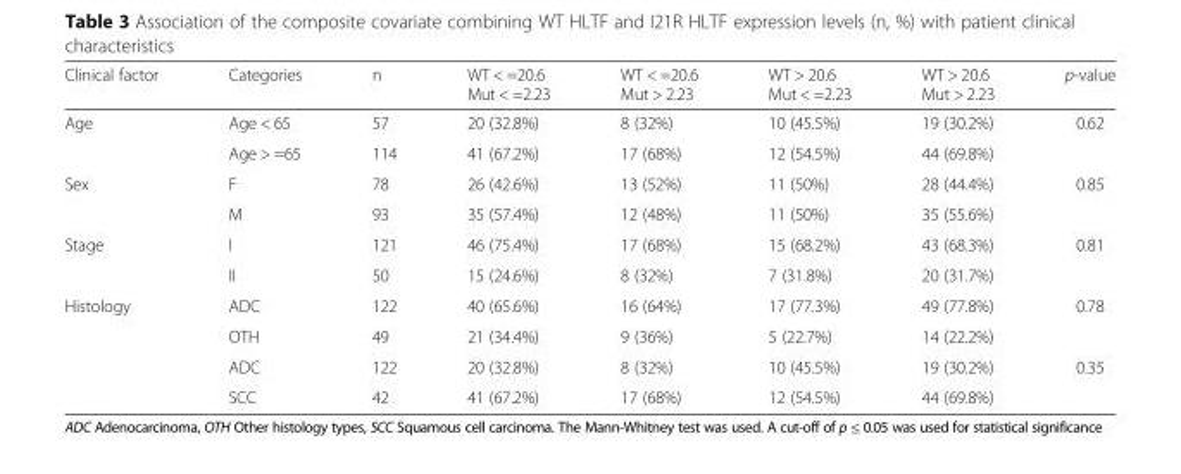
<table><thead><tr><td>Clinical factor</td><td>Categories</td><td>n</td><td>WT &lt; =20.6 Mut &lt; =2.23</td><td>WT &lt; =20.6 Mut &gt; 2.23</td><td>WT &gt; 20.6 Mut &lt; =2.23</td><td>WT &gt; 20.6 Mut &gt; 2.23</td><td>p-value</td></tr></thead><tbody><tr><td rowspan="2">Age</td><td>Age &lt; 65</td><td>57</td><td>20 (32.8%)</td><td>8 (32%)</td><td>10 (45.5%)</td><td>19 (30.2%)</td><td>0.62</td></tr><tr><td>Age &gt; =65</td><td>114</td><td>41 (67.2%)</td><td>17 (68%)</td><td>12 (54.5%)</td><td>44 (69.8%)</td><td></td></tr><tr><td rowspan="2">Sex</td><td>F</td><td>78</td><td>26 (42.6%)</td><td>13 (52%)</td><td>11 (50%)</td><td>28 (44.4%)</td><td>0.85</td></tr><tr><td>M</td><td>93</td><td>35 (57.4%)</td><td>12 (48%)</td><td>11 (50%)</td><td>35 (55.6%)</td><td></td></tr><tr><td rowspan="2">Stage</td><td>I</td><td>121</td><td>46 (75.4%)</td><td>17 (68%)</td><td>15 (68.2%)</td><td>43 (68.3%)</td><td>0.81</td></tr><tr><td>II</td><td>50</td><td>15 (24.6%)</td><td>8 (32%)</td><td>7 (31.8%)</td><td>20 (31.7%)</td><td></td></tr><tr><td rowspan="4">Histology</td><td>ADC</td><td>122</td><td>40 (65.6%)</td><td>16 (64%)</td><td>17 (77.3%)</td><td>49 (77.8%)</td><td>0.78</td></tr><tr><td>OTH</td><td>49</td><td>21 (34.4%)</td><td>9 (36%)</td><td>5 (22.7%)</td><td>14 (22.2%)</td><td></td></tr><tr><td>ADC</td><td>122</td><td>20 (32.8%)</td><td>8 (32%)</td><td>10 (45.5%)</td><td>19 (30.2%)</td><td>0.35</td></tr><tr><td>SCC</td><td>42</td><td>41 (67.2%)</td><td>17 (68%)</td><td>12 (54.5%)</td><td>44 (69.8%)</td><td></td></tr></tbody></table>